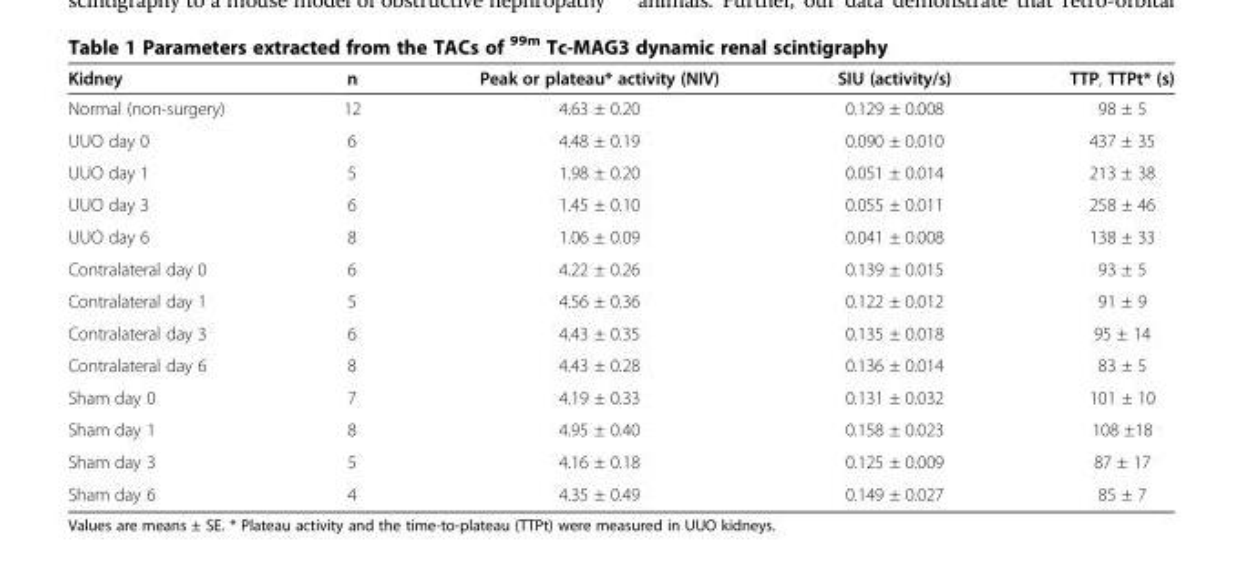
<table><thead><tr><td>Kidney</td><td>n</td><td>Peak or plateau* activity (NIV)</td><td>SIU (activity/s)</td><td>TTP, TTPt* (s)</td></tr></thead><tbody><tr><td>Normal (non-surgery)</td><td>12</td><td>4.63 ± 0.20</td><td>0.129 ± 0.008</td><td>98 ± 5</td></tr><tr><td>UUO day 0</td><td>6</td><td>4.48 ± 0.19</td><td>0.090 ± 0.010</td><td>437 ± 35</td></tr><tr><td>UUO day 1</td><td>5</td><td>1.98 ± 0.20</td><td>0.051 ± 0.014</td><td>213 ± 38</td></tr><tr><td>UUO day 3</td><td>6</td><td>1.45 ± 0.10</td><td>0.055 ± 0.011</td><td>258 ± 46</td></tr><tr><td>UUO day 6</td><td>8</td><td>1.06 ± 0.09</td><td>0.041 ± 0.008</td><td>138 ± 33</td></tr><tr><td>Contralateral day 0</td><td>6</td><td>4.22 ± 0.26</td><td>0.139 ± 0.015</td><td>93 ± 5</td></tr><tr><td>Contralateral day 1</td><td>5</td><td>4.56 ± 0.36</td><td>0.122 ± 0.012</td><td>91 ± 9</td></tr><tr><td>Contralateral day 3</td><td>6</td><td>4.43 ± 0.35</td><td>0.135 ± 0.018</td><td>95 ± 14</td></tr><tr><td>Contralateral day 6</td><td>8</td><td>4.43 ± 0.28</td><td>0.136 ± 0.014</td><td>83 ± 5</td></tr><tr><td>Sham day 0</td><td>7</td><td>4.19 ± 0.33</td><td>0.131 ± 0.032</td><td>101 ± 10</td></tr><tr><td>Sham day 1</td><td>8</td><td>4.95 ± 0.40</td><td>0.158 ± 0.023</td><td>108 ±18</td></tr><tr><td>Sham day 3</td><td>5</td><td>4.16 ± 0.18</td><td>0.125 ± 0.009</td><td>87 ± 17</td></tr><tr><td>Sham day 6</td><td>4</td><td>4.35 ± 0.49</td><td>0.149 ± 0.027</td><td>85 ± 7</td></tr></tbody></table>